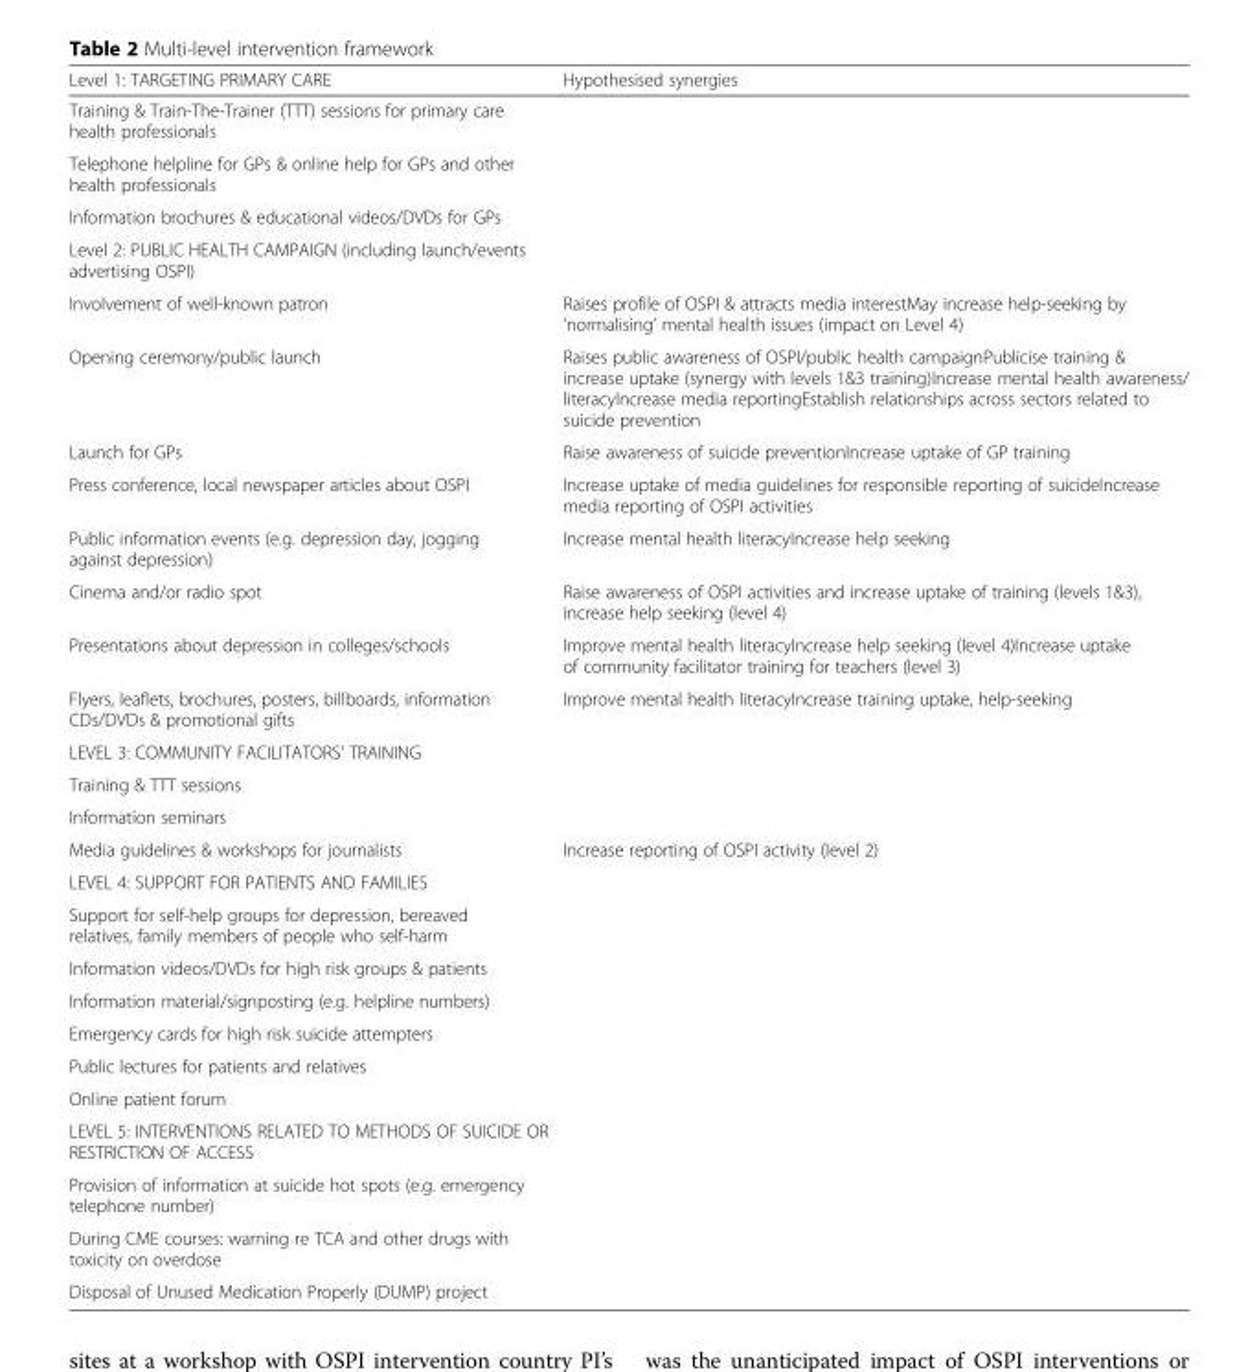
<table><thead><tr><td>Level 1: TARGETING PRIMARY CARE</td><td>Hypothesised synergies</td></tr></thead><tbody><tr><td colspan="2">Training &amp; Train-The-Trainer (TTT) sessions for primary care health professionals</td></tr><tr><td colspan="2">Telephone helpline for GPs &amp; online help for GPs and other health professionals</td></tr><tr><td colspan="2">Information brochures &amp; educational videos/DVDs for GPs</td></tr><tr><td colspan="2">Level 2: PUBLIC HEALTH CAMPAIGN (including launch/events advertising OSPI)</td></tr><tr><td>Involvement of well-known patron</td><td>Raises profile of OSPI &amp; attracts media interestMay increase help-seeking by ‘normalising’ mental health issues (impact on Level 4)</td></tr><tr><td>Opening ceremony/public launch</td><td>Raises public awareness of OSPI/public health campaignPublicise training &amp; increase uptake (synergy with levels 1&amp;3 training)Increase mental health awareness/ literacyIncrease media reportingEstablish relationships across sectors related to suicide prevention</td></tr><tr><td>Launch for GPs</td><td>Raise awareness of suicide preventionIncrease uptake of GP training</td></tr><tr><td>Press conference, local newspaper articles about OSPI</td><td>Increase uptake of media guidelines for responsible reporting of suicideIncrease media reporting of OSPI activities</td></tr><tr><td>Public information events (e.g. depression day, jogging against depression)</td><td>Increase mental health literacyIncrease help seeking</td></tr><tr><td>Cinema and/or radio spot</td><td>Raise awareness of OSPI activities and increase uptake of training (levels 1&amp;3), increase help seeking (level 4)</td></tr><tr><td>Presentations about depression in colleges/schools</td><td>Improve mental health literacyIncrease help seeking (level 4)Increase uptake of community facilitator training for teachers (level 3)</td></tr><tr><td>Flyers, leaflets, brochures, posters, billboards, information CDs/DVDs &amp; promotional gifts</td><td>Improve mental health literacyIncrease training uptake, help-seeking</td></tr><tr><td colspan="2">LEVEL 3: COMMUNITY FACILITATORS’ TRAINING</td></tr><tr><td colspan="2">Training &amp; TTT sessions</td></tr><tr><td colspan="2">Information seminars</td></tr><tr><td>Media guidelines &amp; workshops for journalists</td><td>Increase reporting of OSPI activity (level 2)</td></tr><tr><td colspan="2">LEVEL 4: SUPPORT FOR PATIENTS AND FAMILIES</td></tr><tr><td colspan="2">Support for self-help groups for depression, bereaved relatives, family members of people who self-harm</td></tr><tr><td colspan="2">Information videos/DVDs for high risk groups &amp; patients</td></tr><tr><td colspan="2">Information material/signposting (e.g. helpline numbers)</td></tr><tr><td colspan="2">Emergency cards for high risk suicide attempters</td></tr><tr><td colspan="2">Public lectures for patients and relatives</td></tr><tr><td colspan="2">Online patient forum</td></tr><tr><td colspan="2">LEVEL 5: INTERVENTIONS RELATED TO METHODS OF SUICIDE OR RESTRICTION OF ACCESS</td></tr><tr><td colspan="2">Provision of information at suicide hot spots (e.g. emergency telephone number)</td></tr><tr><td colspan="2">During CME courses: warning re TCA and other drugs with toxicity on overdose</td></tr><tr><td>Disposal of Unused Medication Properly (DUMP) project</td><td></td></tr></tbody></table>